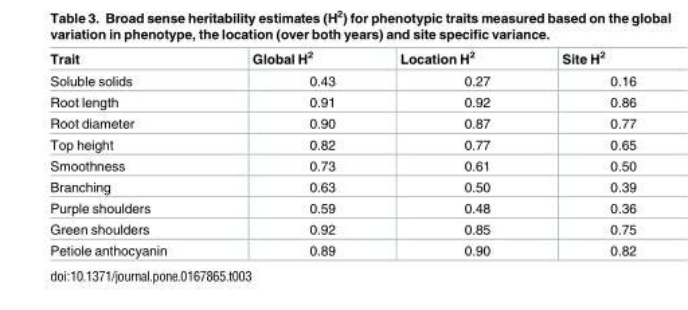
<table><thead><tr><td>Trait</td><td>Global H<sup>2</sup></td><td>Location H<sup>2</sup></td><td>Site H<sup>2</sup></td></tr></thead><tbody><tr><td>Soluble solids</td><td>0.43</td><td>0.27</td><td>0.16</td></tr><tr><td>Root length</td><td>0.91</td><td>0.92</td><td>0.86</td></tr><tr><td>Root diameter</td><td>0.90</td><td>0.87</td><td>0.77</td></tr><tr><td>Top height</td><td>0.82</td><td>0.77</td><td>0.65</td></tr><tr><td>Smoothness</td><td>0.73</td><td>0.61</td><td>0.50</td></tr><tr><td>Branching</td><td>0.63</td><td>0.50</td><td>0.39</td></tr><tr><td>Purple shoulders</td><td>0.59</td><td>0.48</td><td>0.36</td></tr><tr><td>Green shoulders</td><td>0.92</td><td>0.85</td><td>0.75</td></tr><tr><td>Petiole anthocyanin</td><td>0.89</td><td>0.90</td><td>0.82</td></tr></tbody></table>